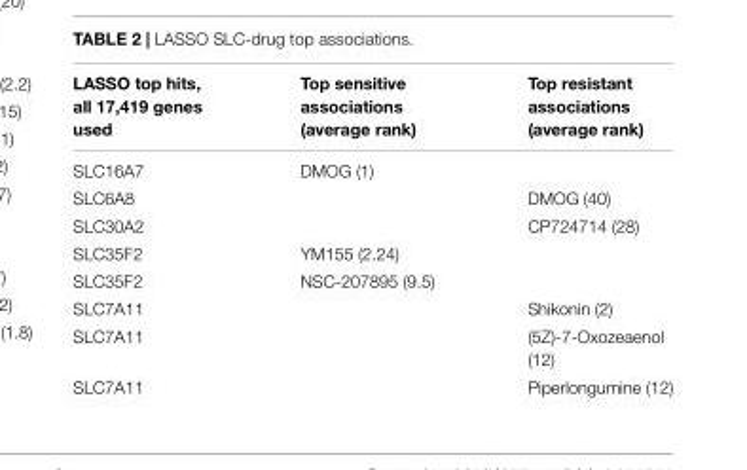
<table><thead><tr><td>LASSO top hits, all 17,419 genes used</td><td>Top sensitive associations (average rank)</td><td>Top resistant associations (average rank)</td></tr></thead><tbody><tr><td>SLC16A7</td><td>DMOG (1)</td><td></td></tr><tr><td>SLC6A8</td><td></td><td>DMOG (40)</td></tr><tr><td>SLC30A2</td><td></td><td>CP724714 (28)</td></tr><tr><td>SLC35F2</td><td>YM155 (2.24)</td><td></td></tr><tr><td>SLC35F2</td><td>NSC-207895 (9.5)</td><td></td></tr><tr><td>SLC7A11</td><td></td><td>Shikonin (2)</td></tr><tr><td>SLC7A11</td><td></td><td>(5Z)-7-Oxozeaenol (12)</td></tr><tr><td>SLC7A11</td><td></td><td>Piperlongumine (12)</td></tr></tbody></table>